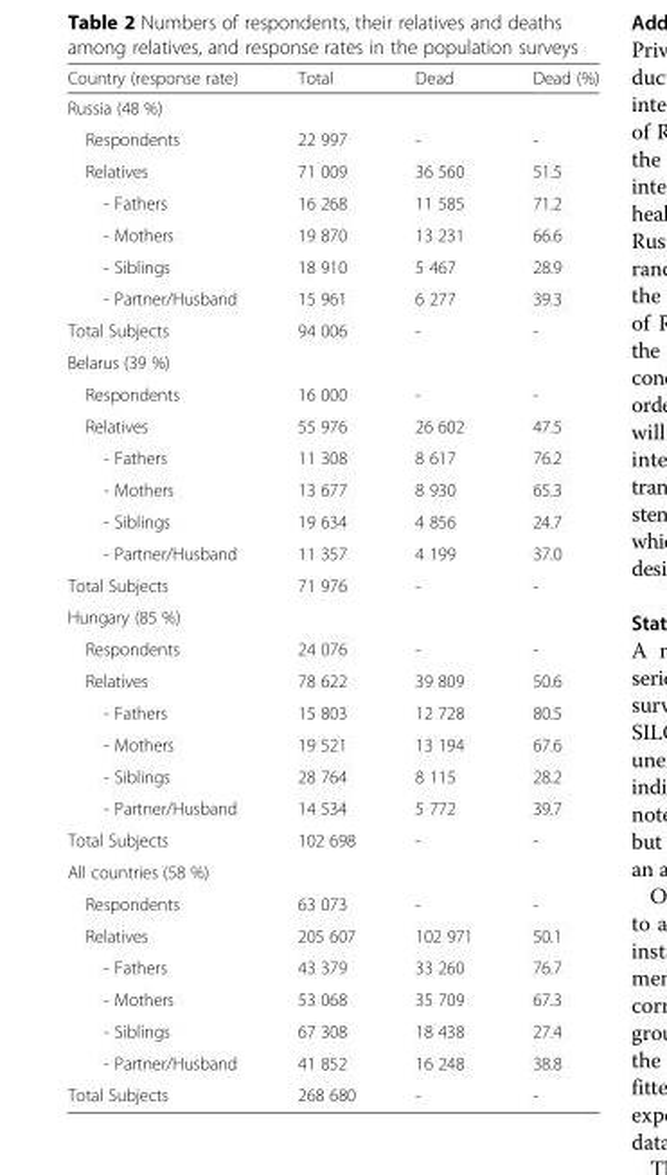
<table><thead><tr><td>Country (response rate)</td><td>Total</td><td>Dead</td><td>Dead (%)</td></tr></thead><tbody><tr><td colspan="4">Russia (48 %)</td></tr><tr><td>Respondents</td><td>22 997</td><td>-</td><td>-</td></tr><tr><td>Relatives</td><td>71 009</td><td>36 560</td><td>51.5</td></tr><tr><td>- Fathers</td><td>16 268</td><td>11 585</td><td>71.2</td></tr><tr><td>- Mothers</td><td>19 870</td><td>13 231</td><td>66.6</td></tr><tr><td>- Siblings</td><td>18 910</td><td>5 467</td><td>28.9</td></tr><tr><td>- Partner/Husband</td><td>15 961</td><td>6 277</td><td>39.3</td></tr><tr><td>Total Subjects</td><td>94 006</td><td>-</td><td>-</td></tr><tr><td colspan="4">Belarus (39 %)</td></tr><tr><td>Respondents</td><td>16 000</td><td>-</td><td>-</td></tr><tr><td>Relatives</td><td>55 976</td><td>26 602</td><td>47.5</td></tr><tr><td>- Fathers</td><td>11 308</td><td>8 617</td><td>76.2</td></tr><tr><td>- Mothers</td><td>13 677</td><td>8 930</td><td>65.3</td></tr><tr><td>- Siblings</td><td>19 634</td><td>4 856</td><td>24.7</td></tr><tr><td>- Partner/Husband</td><td>11 357</td><td>4 199</td><td>37.0</td></tr><tr><td>Total Subjects</td><td>71 976</td><td>-</td><td>-</td></tr><tr><td colspan="4">Hungary (85 %)</td></tr><tr><td>Respondents</td><td>24 076</td><td>-</td><td>-</td></tr><tr><td>Relatives</td><td>78 622</td><td>39 809</td><td>50.6</td></tr><tr><td>- Fathers</td><td>15 803</td><td>12 728</td><td>80.5</td></tr><tr><td>- Mothers</td><td>19 521</td><td>13 194</td><td>67.6</td></tr><tr><td>- Siblings</td><td>28 764</td><td>8 115</td><td>28.2</td></tr><tr><td>- Partner/Husband</td><td>14 534</td><td>5 772</td><td>39.7</td></tr><tr><td>Total Subjects</td><td>102 698</td><td>-</td><td>-</td></tr><tr><td colspan="4">All countries (58 %)</td></tr><tr><td>Respondents</td><td>63 073</td><td>-</td><td>-</td></tr><tr><td>Relatives</td><td>205 607</td><td>102 971</td><td>50.1</td></tr><tr><td>- Fathers</td><td>43 379</td><td>33 260</td><td>76.7</td></tr><tr><td>- Mothers</td><td>53 068</td><td>35 709</td><td>67.3</td></tr><tr><td>- Siblings</td><td>67 308</td><td>18 438</td><td>27.4</td></tr><tr><td>- Partner/Husband</td><td>41 852</td><td>16 248</td><td>38.8</td></tr><tr><td>Total Subjects</td><td>268 680</td><td>-</td><td>-</td></tr></tbody></table>